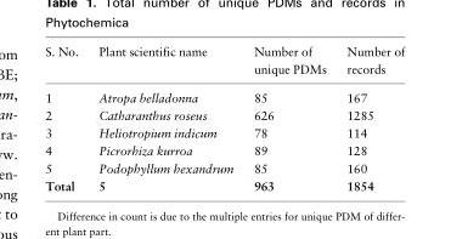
<table><thead><tr><td>S. No.</td><td>Plant scientific name</td><td>Number of unique PDMs</td><td>Number of records</td></tr></thead><tbody><tr><td>1</td><td>Atropa belladonna</td><td>85</td><td>167</td></tr><tr><td>2</td><td>Catharanthus roseus</td><td>626</td><td>1285</td></tr><tr><td>3</td><td>Heliotropium indicum</td><td>78</td><td>114</td></tr><tr><td>4</td><td>Picrorhiza kurroa</td><td>89</td><td>128</td></tr><tr><td>5</td><td>Podophyllum hexandrum</td><td>85</td><td>160</td></tr><tr><td>Total</td><td>5</td><td>963</td><td>1854</td></tr></tbody></table>